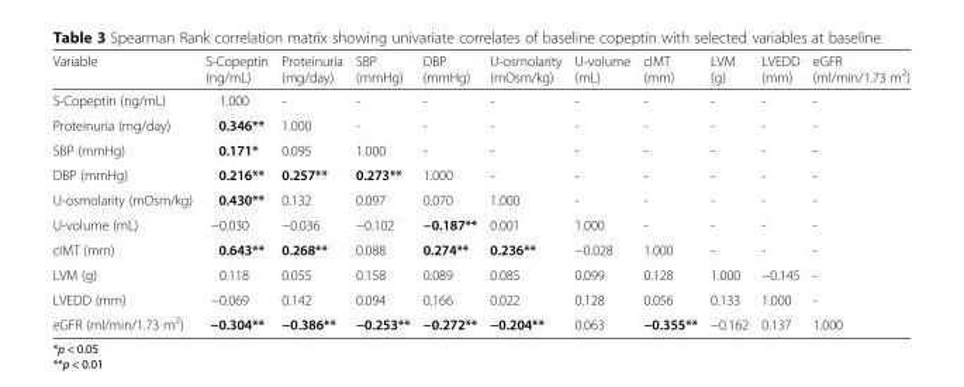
<table><thead><tr><td>Variable</td><td>S-Copeptin (ng/mL)</td><td>Proteinuria (mg/day)</td><td>SBP (mmHg)</td><td>DBP (mmHg)</td><td>U-osmolarity (mOsm/kg)</td><td>U-volume (mL)</td><td>cIMT (mm)</td><td>LVM (g)</td><td>LVEDD (mm)</td><td>eGFR (ml/min/1.73 m<sup>2</sup>)</td></tr></thead><tbody><tr><td>S-Copeptin (ng/mL)</td><td>1.000</td><td>-</td><td>-</td><td>-</td><td>-</td><td>-</td><td>-</td><td>-</td><td>-</td><td>-</td></tr><tr><td>Proteinuria (mg/day)</td><td>0.346**</td><td>1.000</td><td>-</td><td>-</td><td>-</td><td>-</td><td>-</td><td>-</td><td>-</td><td>-</td></tr><tr><td>SBP (mmHg)</td><td>0.171*</td><td>0.095</td><td>1.000</td><td>-</td><td>-</td><td>-</td><td>-</td><td>-</td><td>-</td><td>-</td></tr><tr><td>DBP (mmHg)</td><td>0.216**</td><td>0.257**</td><td>0.273**</td><td>1.000</td><td>-</td><td>-</td><td>-</td><td>-</td><td>-</td><td>-</td></tr><tr><td>U-osmolarity (mOsm/kg)</td><td>0.430**</td><td>0.132</td><td>0.097</td><td>0.070</td><td>1.000</td><td>-</td><td>-</td><td>-</td><td>-</td><td>-</td></tr><tr><td>U-volume (mL)</td><td>−0.030</td><td>−0.036</td><td>−0.102</td><td>−0.187**</td><td>0.001</td><td>1.000</td><td>-</td><td>-</td><td>-</td><td>-</td></tr><tr><td>cIMT (mm)</td><td>0.643**</td><td>0.268**</td><td>0.088</td><td>0.274**</td><td>0.236**</td><td>−0.028</td><td>1.000</td><td>-</td><td>-</td><td>-</td></tr><tr><td>LVM (g)</td><td>0.118</td><td>0.055</td><td>0.158</td><td>0.089</td><td>0.085</td><td>0.099</td><td>0.128</td><td>1.000</td><td>−0.145</td><td>-</td></tr><tr><td>LVEDD (mm)</td><td>−0.069</td><td>0.142</td><td>0.094</td><td>0.166</td><td>0.022</td><td>0.128</td><td>0.056</td><td>0.133</td><td>1.000</td><td>-</td></tr><tr><td>eGFR (ml/min/1.73 m<sup>2</sup>)</td><td>−0.304**</td><td>−0.386**</td><td>−0.253**</td><td>−0.272**</td><td>−0.204**</td><td>0.063</td><td>−0.355**</td><td>−0.162</td><td>0.137</td><td>1.000</td></tr></tbody></table>